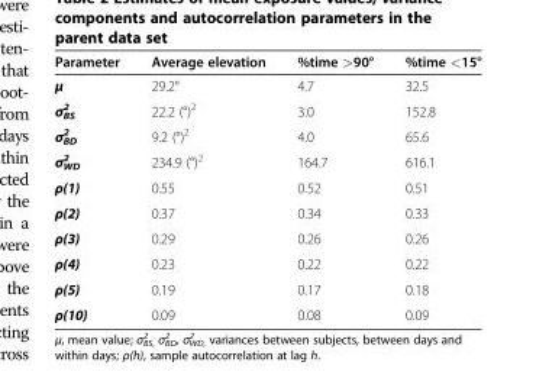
<table><thead><tr><td>Parameter</td><td>Average elevation</td><td>%time &gt;90°</td><td>%time &lt;15°</td></tr></thead><tbody><tr><td>μ</td><td>29.2°</td><td>4.7</td><td>32.5</td></tr><tr><td>σ<sup>2</sup> <sub>BS</sub></td><td>22.2 (°)<sup>2</sup></td><td>3.0</td><td>152.8</td></tr><tr><td>σ<sup>2</sup> <sub>BD</sub></td><td>9.2 (°)<sup>2</sup></td><td>4.0</td><td>65.6</td></tr><tr><td>σ<sup>2</sup> <sub>WD</sub></td><td>234.9 (°)<sup>2</sup></td><td>164.7</td><td>616.1</td></tr><tr><td>ρ(1)</td><td>0.55</td><td>0.52</td><td>0.51</td></tr><tr><td>ρ(2)</td><td>0.37</td><td>0.34</td><td>0.33</td></tr><tr><td>ρ(3)</td><td>0.29</td><td>0.26</td><td>0.26</td></tr><tr><td>ρ(4)</td><td>0.23</td><td>0.22</td><td>0.22</td></tr><tr><td>ρ(5)</td><td>0.19</td><td>0.17</td><td>0.18</td></tr><tr><td>ρ(10)</td><td>0.09</td><td>0.08</td><td>0.09</td></tr></tbody></table>